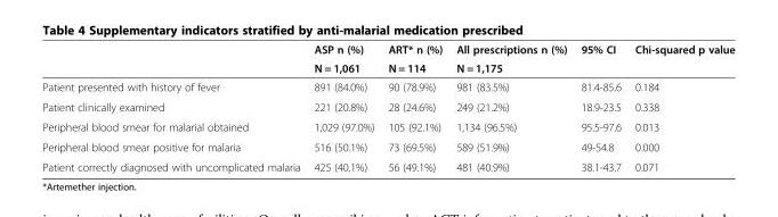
<table><thead><tr><td rowspan="2"></td><td rowspan="2">ASP n (%) N = 1,061</td><td rowspan="2">ART* n (%) N = 114</td><td rowspan="2">All prescriptions n (%) N = 1,175</td><td rowspan="2">95% CI</td><td rowspan="2">Chi-squared p value</td></tr><tr></tr></thead><tbody><tr><td>Patient presented with history of fever</td><td>891 (84.0%)</td><td>90 (78.9%)</td><td>981 (83.5%)</td><td>81.4-85.6</td><td>0.184</td></tr><tr><td>Patient clinically examined</td><td>221 (20.8%)</td><td>28 (24.6%)</td><td>249 (21.2%)</td><td>18.9-23.5</td><td>0.338</td></tr><tr><td>Peripheral blood smear for malarial obtained</td><td>1,029 (97.0%)</td><td>105 (92.1%)</td><td>1,134 (96.5%)</td><td>95.5-97.6</td><td>0.013</td></tr><tr><td>Peripheral blood smear positive for malaria</td><td>516 (50.1%)</td><td>73 (69.5%)</td><td>589 (51.9%)</td><td>49-54.8</td><td>0.000</td></tr><tr><td>Patient correctly diagnosed with uncomplicated malaria</td><td>425 (40.1%)</td><td>56 (49.1%)</td><td>481 (40.9%)</td><td>38.1-43.7</td><td>0.071</td></tr></tbody></table>